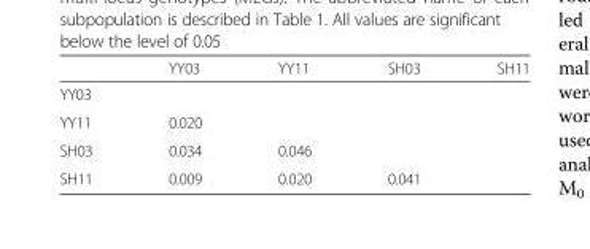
<table><thead><tr><td></td><td>YY03</td><td>YY11</td><td>SH03</td><td>SH11</td></tr></thead><tbody><tr><td colspan="5">YY03</td></tr><tr><td>YY11</td><td>0.020</td><td></td><td></td><td></td></tr><tr><td>SH03</td><td>0.034</td><td>0.046</td><td></td><td></td></tr><tr><td>SH11</td><td>0.009</td><td>0.020</td><td>0.041</td><td></td></tr></tbody></table>